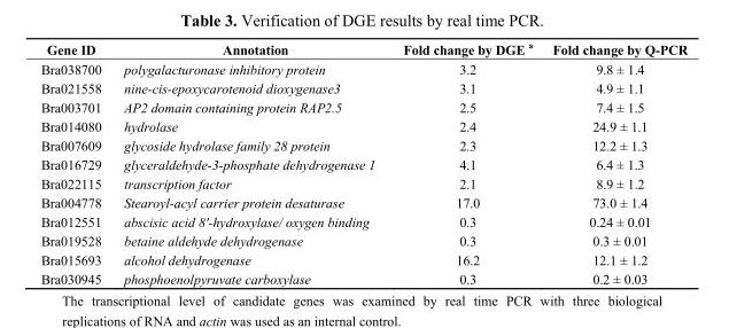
<table><thead><tr><td>Gene ID</td><td>Annotation</td><td>Fold change by DGE <sup>a</sup></td><td>Fold change by Q-PCR</td></tr></thead><tbody><tr><td>Bra038700</td><td>polygalacturonase inhibitory protein</td><td>3.2</td><td>9.8 ± 1.4</td></tr><tr><td>Bra021558</td><td>nine-cis-epoxycarotenoid dioxygenase3</td><td>3.1</td><td>4.9 ± 1.1</td></tr><tr><td>Bra003701</td><td>AP2 domain containing protein RAP2.5</td><td>2.5</td><td>7.4 ± 1.5</td></tr><tr><td>Bra014080</td><td>hydrolase</td><td>2.4</td><td>24.9 ± 1.1</td></tr><tr><td>Bra007609</td><td>glycoside hydrolase family 28 protein</td><td>2.3</td><td>12.2 ± 1.3</td></tr><tr><td>Bra016729</td><td>glyceraldehyde-3-phosphate dehydrogenase 1</td><td>4.1</td><td>6.4 ± 1.3</td></tr><tr><td>Bra022115</td><td>transcription factor</td><td>2.1</td><td>8.9 ± 1.2</td></tr><tr><td>Bra004778</td><td>Stearoyl-acyl carrier protein desaturase</td><td>17.0</td><td>73.0 ± 1.4</td></tr><tr><td>Bra012551</td><td>abscisic acid 8&#x27;-hydroxylase/ oxygen binding</td><td>0.3</td><td>0.24 ± 0.01</td></tr><tr><td>Bra019528</td><td>betaine aldehyde dehydrogenase</td><td>0.3</td><td>0.3 ± 0.01</td></tr><tr><td>Bra015693</td><td>alcohol dehydrogenase</td><td>16.2</td><td>12.1 ± 1.2</td></tr><tr><td>Bra030945</td><td>phosphoenolpyruvate carboxylase</td><td>0.3</td><td>0.2 ± 0.03</td></tr></tbody></table>